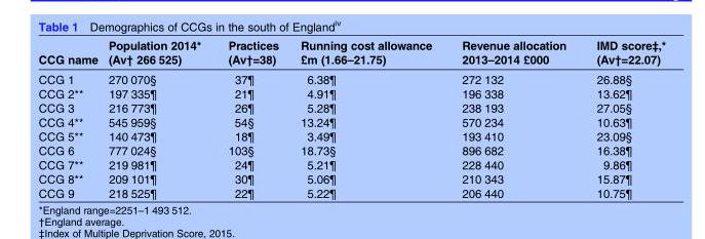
<table><thead><tr><td>CCG name</td><td>Population 2014* (Av† 266 525)</td><td>Practices (Av†=38)</td><td>Running cost allowance £m (1.66–21.75)</td><td>Revenue allocation 2013–2014 £000</td><td>IMD score‡,* (Av†=22.07)</td></tr></thead><tbody><tr><td>CCG 1</td><td>270 070§</td><td>37¶</td><td>6.38¶</td><td>272 132</td><td>26.88§</td></tr><tr><td>CCG 2**</td><td>197 335¶</td><td>21¶</td><td>4.91¶</td><td>196 338</td><td>13.62¶</td></tr><tr><td>CCG 3</td><td>216 773¶</td><td>26¶</td><td>5.28¶</td><td>238 193</td><td>27.05§</td></tr><tr><td>CCG 4**</td><td>545 959§</td><td>54§</td><td>13.24¶</td><td>570 234</td><td>10.63¶</td></tr><tr><td>CCG 5**</td><td>140 473¶</td><td>18¶</td><td>3.49¶</td><td>193 410</td><td>23.09§</td></tr><tr><td>CCG 6</td><td>777 024§</td><td>103§</td><td>18.73§</td><td>896 682</td><td>16.38¶</td></tr><tr><td>CCG 7**</td><td>219 981¶</td><td>24¶</td><td>5.21¶</td><td>228 440</td><td>9.86¶</td></tr><tr><td>CCG 8**</td><td>209 101¶</td><td>30¶</td><td>5.06¶</td><td>210 343</td><td>15.87¶</td></tr><tr><td>CCG 9</td><td>218 525¶</td><td>22¶</td><td>5.22¶</td><td>206 440</td><td>10.75¶</td></tr></tbody></table>